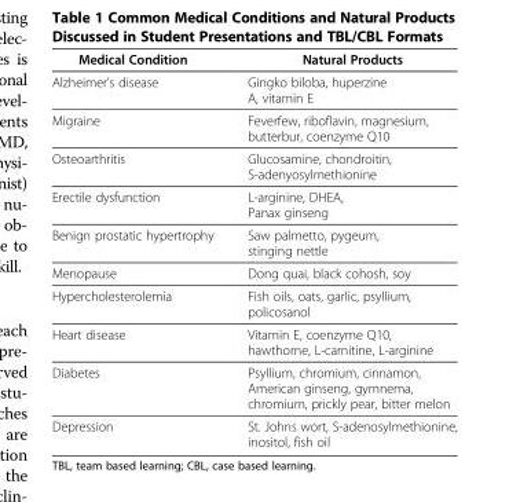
<table><thead><tr><td>Medical Condition</td><td>Natural Products</td></tr></thead><tbody><tr><td>Alzheimer’s disease</td><td>Gingko biloba, huperzine A, vitamin E</td></tr><tr><td>Migraine</td><td>Feverfew, riboflavin, magnesium, butterbur, coenzyme Q10</td></tr><tr><td>Osteoarthritis</td><td>Glucosamine, chondroitin, S-adenyosylmethionine</td></tr><tr><td>Erectile dysfunction</td><td>L-arginine, DHEA, Panax ginseng</td></tr><tr><td>Benign prostatic hypertrophy</td><td>Saw palmetto, pygeum, stinging nettle</td></tr><tr><td>Menopause</td><td>Dong quai, black cohosh, soy</td></tr><tr><td>Hypercholesterolemia</td><td>Fish oils, oats, garlic, psyllium, policosanol</td></tr><tr><td>Heart disease</td><td>Vitamin E, coenzyme Q10, hawthorne, L-carnitine, L-arginine</td></tr><tr><td>Diabetes</td><td>Psyllium, chromium, cinnamon, American ginseng, gymnema, chromium, prickly pear, bitter melon</td></tr><tr><td>Depression</td><td>St. Johns wort, S-adenosylmethionine, inositol, fish oil</td></tr></tbody></table>